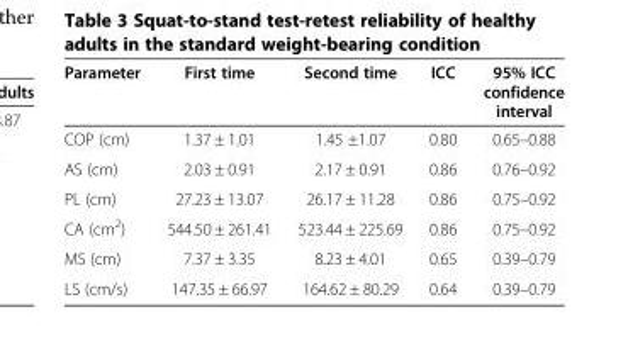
<table><thead><tr><td>Parameter</td><td>First time</td><td>Second time</td><td>ICC</td><td>95% ICC confidence interval</td></tr></thead><tbody><tr><td>COP (cm)</td><td>1.37 ± 1.01</td><td>1.45 ±1.07</td><td>0.80</td><td>0.65–0.88</td></tr><tr><td>AS (cm)</td><td>2.03 ± 0.91</td><td>2.17 ± 0.91</td><td>0.86</td><td>0.76–0.92</td></tr><tr><td>PL (cm)</td><td>27.23 ± 13.07</td><td>26.17 ± 11.28</td><td>0.86</td><td>0.75–0.92</td></tr><tr><td>CA (cm<sup>2</sup>)</td><td>544.50 ± 261.41</td><td>523.44 ± 225.69</td><td>0.86</td><td>0.75–0.92</td></tr><tr><td>MS (cm)</td><td>7.37 ± 3.35</td><td>8.23 ± 4.01</td><td>0.65</td><td>0.39–0.79</td></tr><tr><td>LS (cm/s)</td><td>147.35 ± 66.97</td><td>164.62 ± 80.29</td><td>0.64</td><td>0.39–0.79</td></tr></tbody></table>